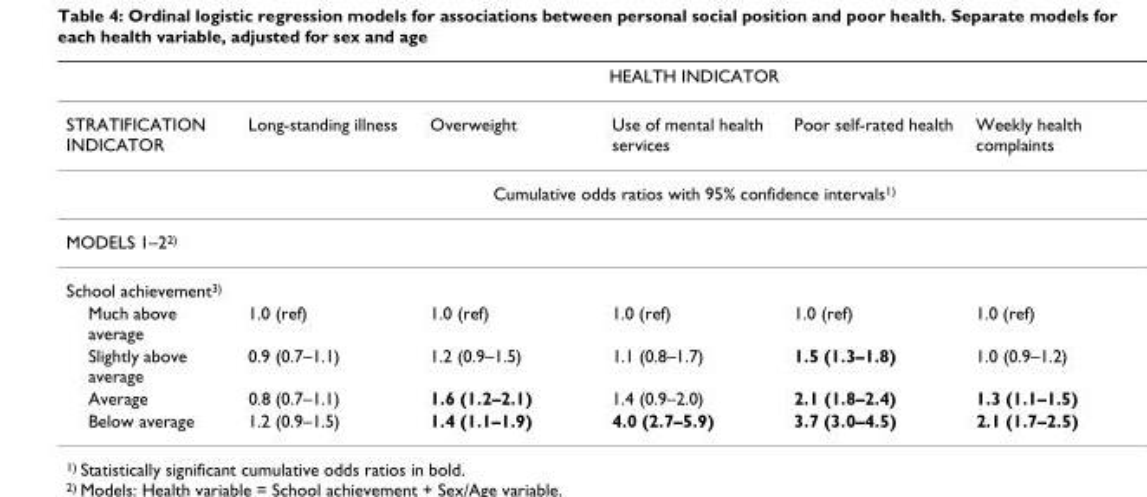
<table><thead><tr><td rowspan="2">STRATIFICATION INDICATOR</td><td colspan="5">HEALTH INDICATOR</td></tr><tr><td>Long-standing illness</td><td>Overweight</td><td>Use of mental health services</td><td>Poor self-rated health</td><td>Weekly health complaints</td></tr></thead><tbody><tr><td></td><td colspan="5">Cumulative odds ratios with 95% confidence intervals1)</td></tr><tr><td colspan="6">MODELS 1–22)</td></tr><tr><td colspan="6">School achievement3)</td></tr><tr><td>Much above average</td><td>1.0 (ref)</td><td>1.0 (ref)</td><td>1.0 (ref)</td><td>1.0 (ref)</td><td>1.0 (ref)</td></tr><tr><td>Slightly above average</td><td>0.9 (0.7–1.1)</td><td>1.2 (0.9–1.5)</td><td>1.1 (0.8–1.7)</td><td>1.5 (1.3–1.8)</td><td>1.0 (0.9–1.2)</td></tr><tr><td>Average</td><td>0.8 (0.7–1.1)</td><td>1.6 (1.2–2.1)</td><td>1.4 (0.9–2.0)</td><td>2.1 (1.8–2.4)</td><td>1.3 (1.1–1.5)</td></tr><tr><td>Below average</td><td>1.2 (0.9–1.5)</td><td>1.4 (1.1–1.9)</td><td>4.0 (2.7–5.9)</td><td>3.7 (3.0–4.5)</td><td>2.1 (1.7–2.5)</td></tr></tbody></table>